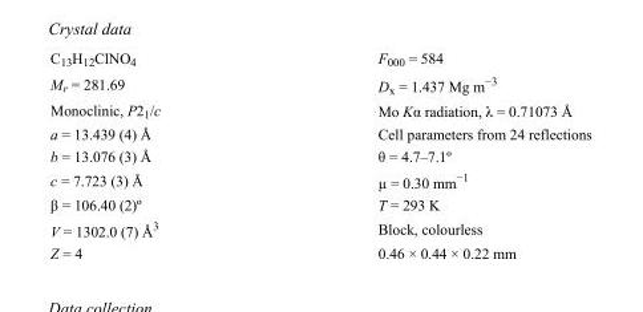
<table><tbody><tr><td>C<sub>13</sub>H<sub>12</sub>ClNO<sub>4</sub></td><td>F000 = 584</td></tr><tr><td>M<sub>r</sub> = 281.69</td><td>D<sub>x</sub> = 1.437 Mg m<sup>−3</sup></td></tr><tr><td>Monoclinic, P2<sub>1</sub>/c</td><td>Mo Kα radiation, λ = 0.71073 Å</td></tr><tr><td>a = 13.439 (4) Å</td><td>Cell parameters from 24 reflections</td></tr><tr><td>b = 13.076 (3) Å</td><td>θ = 4.7–7.1º</td></tr><tr><td>c = 7.723 (3) Å</td><td>µ = 0.30 mm<sup>−1</sup></td></tr><tr><td>β = 106.40 (2)º</td><td>T = 293 K</td></tr><tr><td>V = 1302.0 (7) Å<sup>3</sup></td><td>Block, colourless</td></tr><tr><td>Z = 4</td><td>0.46 × 0.44 × 0.22 mm</td></tr></tbody></table>